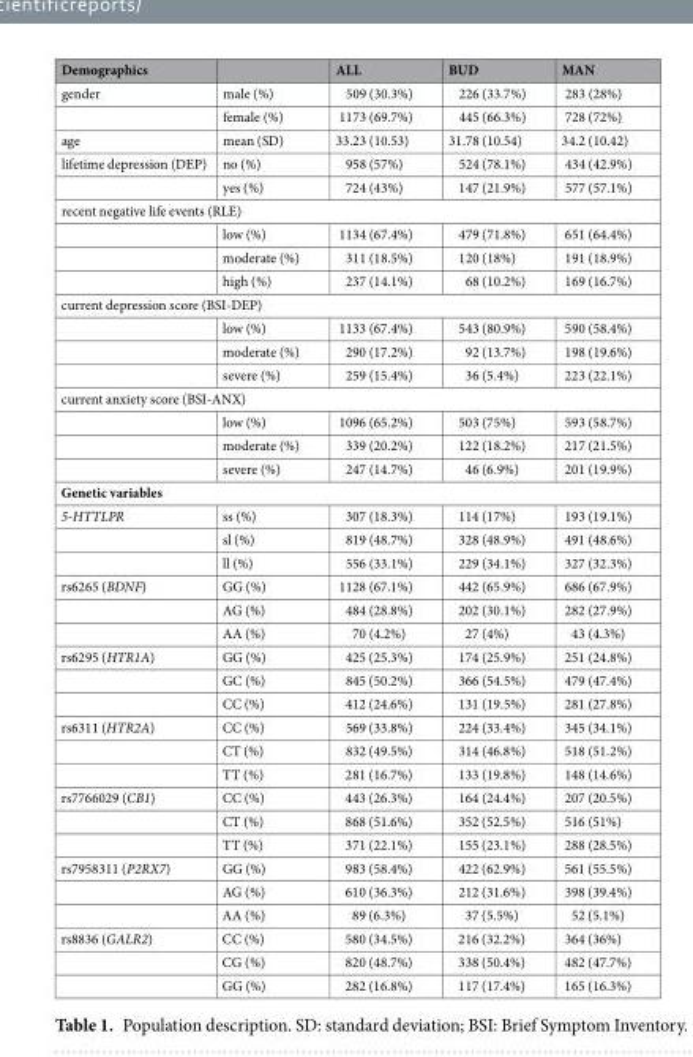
<table><thead><tr><td>Demographics</td><td></td><td>ALL</td><td>BUD</td><td>MAN</td></tr></thead><tbody><tr><td rowspan="2">gender</td><td>male (%)</td><td>509 (30.3%)</td><td>226 (33.7%)</td><td>283 (28%)</td></tr><tr><td>female (%)</td><td>1173 (69.7%)</td><td>445 (66.3%)</td><td>728 (72%)</td></tr><tr><td>age</td><td>mean (SD)</td><td>33.23 (10.53)</td><td>31.78 (10.54)</td><td>34.2 (10.42)</td></tr><tr><td rowspan="2">lifetime depression (DEP)</td><td>no (%)</td><td>958 (57%)</td><td>524 (78.1%)</td><td>434 (42.9%)</td></tr><tr><td>yes (%)</td><td>724 (43%)</td><td>147 (21.9%)</td><td>577 (57.1%)</td></tr><tr><td colspan="5">recent negative life events (RLE)</td></tr><tr><td></td><td>low (%)</td><td>1134 (67.4%)</td><td>479 (71.8%)</td><td>651 (64.4%)</td></tr><tr><td></td><td>moderate (%)</td><td>311 (18.5%)</td><td>120 (18%)</td><td>191 (18.9%)</td></tr><tr><td></td><td>high (%)</td><td>237 (14.1%)</td><td>68 (10.2%)</td><td>169 (16.7%)</td></tr><tr><td colspan="5">current depression score (BSI-DEP)</td></tr><tr><td></td><td>low (%)</td><td>1133 (67.4%)</td><td>543 (80.9%)</td><td>590 (58.4%)</td></tr><tr><td></td><td>moderate (%)</td><td>290 (17.2%)</td><td>92 (13.7%)</td><td>198 (19.6%)</td></tr><tr><td></td><td>severe (%)</td><td>259 (15.4%)</td><td>36 (5.4%)</td><td>223 (22.1%)</td></tr><tr><td colspan="5">current anxiety score (BSI-ANX)</td></tr><tr><td></td><td>low (%)</td><td>1096 (65.2%)</td><td>503 (75%)</td><td>593 (58.7%)</td></tr><tr><td></td><td>moderate (%)</td><td>339 (20.2%)</td><td>122 (18.2%)</td><td>217 (21.5%)</td></tr><tr><td></td><td>severe (%)</td><td>247 (14.7%)</td><td>46 (6.9%)</td><td>201 (19.9%)</td></tr><tr><td colspan="5">Genetic variables</td></tr><tr><td rowspan="3">5-HTTLPR</td><td>ss (%)</td><td>307 (18.3%)</td><td>114 (17%)</td><td>193 (19.1%)</td></tr><tr><td>sl (%)</td><td>819 (48.7%)</td><td>328 (48.9%)</td><td>491 (48.6%)</td></tr><tr><td>ll (%)</td><td>556 (33.1%)</td><td>229 (34.1%)</td><td>327 (32.3%)</td></tr><tr><td rowspan="3">rs6265 (BDNF)</td><td>GG (%)</td><td>1128 (67.1%)</td><td>442 (65.9%)</td><td>686 (67.9%)</td></tr><tr><td>AG (%)</td><td>484 (28.8%)</td><td>202 (30.1%)</td><td>282 (27.9%)</td></tr><tr><td>AA (%)</td><td>70 (4.2%)</td><td>27 (4%)</td><td>43 (4.3%)</td></tr><tr><td rowspan="3">rs6295 (HTR1A)</td><td>GG (%)</td><td>425 (25.3%)</td><td>174 (25.9%)</td><td>251 (24.8%)</td></tr><tr><td>GC (%)</td><td>845 (50.2%)</td><td>366 (54.5%)</td><td>479 (47.4%)</td></tr><tr><td>CC (%)</td><td>412 (24.6%)</td><td>131 (19.5%)</td><td>281 (27.8%)</td></tr><tr><td rowspan="3">rs6311 (HTR2A)</td><td>CC (%)</td><td>569 (33.8%)</td><td>224 (33.4%)</td><td>345 (34.1%)</td></tr><tr><td>CT (%)</td><td>832 (49.5%)</td><td>314 (46.8%)</td><td>518 (51.2%)</td></tr><tr><td>TT (%)</td><td>281 (16.7%)</td><td>133 (19.8%)</td><td>148 (14.6%)</td></tr><tr><td rowspan="3">rs7766029 (CB1)</td><td>CC (%)</td><td>443 (26.3%)</td><td>164 (24.4%)</td><td>207 (20.5%)</td></tr><tr><td>CT (%)</td><td>868 (51.6%)</td><td>352 (52.5%)</td><td>516 (51%)</td></tr><tr><td>TT (%)</td><td>371 (22.1%)</td><td>155 (23.1%)</td><td>288 (28.5%)</td></tr><tr><td rowspan="3">rs7958311 (P2RX7)</td><td>GG (%)</td><td>983 (58.4%)</td><td>422 (62.9%)</td><td>561 (55.5%)</td></tr><tr><td>AG (%)</td><td>610 (36.3%)</td><td>212 (31.6%)</td><td>398 (39.4%)</td></tr><tr><td>AA (%)</td><td>89 (6.3%)</td><td>37 (5.5%)</td><td>52 (5.1%)</td></tr><tr><td rowspan="3">rs8836 (GALR2)</td><td>CC (%)</td><td>580 (34.5%)</td><td>216 (32.2%)</td><td>364 (36%)</td></tr><tr><td>CG (%)</td><td>820 (48.7%)</td><td>338 (50.4%)</td><td>482 (47.7%)</td></tr><tr><td>GG (%)</td><td>282 (16.8%)</td><td>117 (17.4%)</td><td>165 (16.3%)</td></tr></tbody></table>